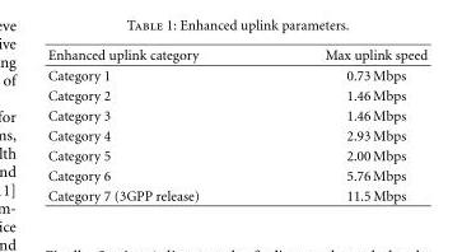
<table><thead><tr><td>Enhanced uplink category</td><td>Max uplink speed</td></tr></thead><tbody><tr><td>Category 1</td><td>0.73 Mbps</td></tr><tr><td>Category 2</td><td>1.46 Mbps</td></tr><tr><td>Category 3</td><td>1.46 Mbps</td></tr><tr><td>Category 4</td><td>2.93 Mbps</td></tr><tr><td>Category 5</td><td>2.00 Mbps</td></tr><tr><td>Category 6</td><td>5.76 Mbps</td></tr><tr><td>Category 7 (3GPP release)</td><td>11.5 Mbps</td></tr></tbody></table>